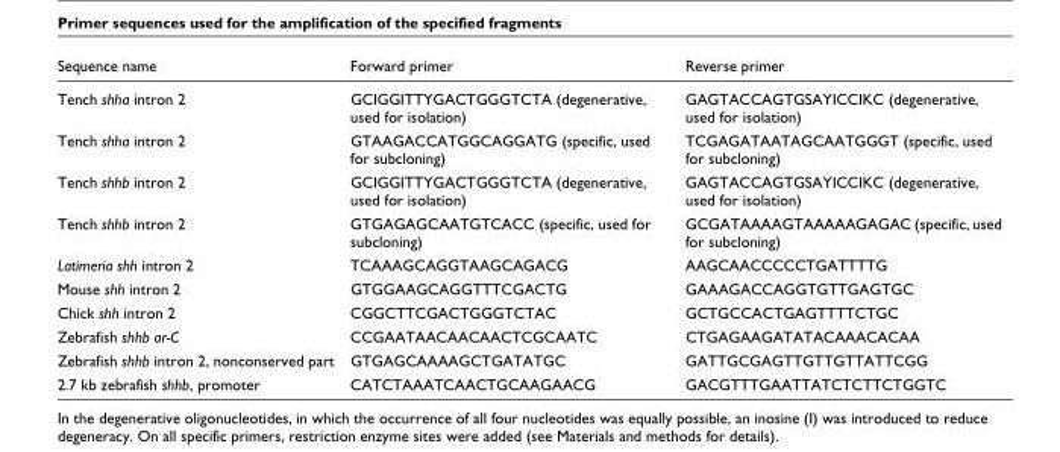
<table><thead><tr><td>Sequence name</td><td>Forward primer</td><td>Reverse primer</td></tr></thead><tbody><tr><td>Tench shha intron 2</td><td>GCIGGITTYGACTGGGTCTA (degenerative, used for isolation)</td><td>GAGTACCAGTGSAYICCIKC (degenerative, used for isolation)</td></tr><tr><td>Tench shha intron 2</td><td>GTAAGACCATGGCAGGATG (specific, used for subcloning)</td><td>TCGAGATAATAGCAATGGGT (specific, used for subcloning)</td></tr><tr><td>Tench shhb intron 2</td><td>GCIGGITTYGACTGGGTCTA (degenerative, used for isolation)</td><td>GAGTACCAGTGSAYICCIKC (degenerative, used for isolation)</td></tr><tr><td>Tench shhb intron 2</td><td>GTGAGAGCAATGTCACC (specific, used for subcloning)</td><td>GCGATAAAAGTAAAAAGAGAC (specific, used for subcloning)</td></tr><tr><td>Latimeria shh intron 2</td><td>TCAAAGCAGGTAAGCAGACG</td><td>AAGCAACCCCCTGATTTTG</td></tr><tr><td>Mouse shh intron 2</td><td>GTGGAAGCAGGTTTCGACTG</td><td>GAAAGACCAGGTGTTGAGTGC</td></tr><tr><td>Chick shh intron 2</td><td>CGGCTTCGACTGGGTCTAC</td><td>GCTGCCACTGAGTTTTCTGC</td></tr><tr><td>Zebrafish shhb ar-C</td><td>CCGAATAACAACAACTCGCAATC</td><td>CTGAGAAGATATACAAACACAA</td></tr><tr><td>Zebrafish shhb intron 2, nonconserved part</td><td>GTGAGCAAAAGCTGATATGC</td><td>GATTGCGAGTTGTTGTTATTCGG</td></tr><tr><td>2.7 kb zebrafish shhb, promoter</td><td>CATCTAAATCAACTGCAAGAACG</td><td>GACGTTTGAATTATCTCTTCTGGTC</td></tr></tbody></table>